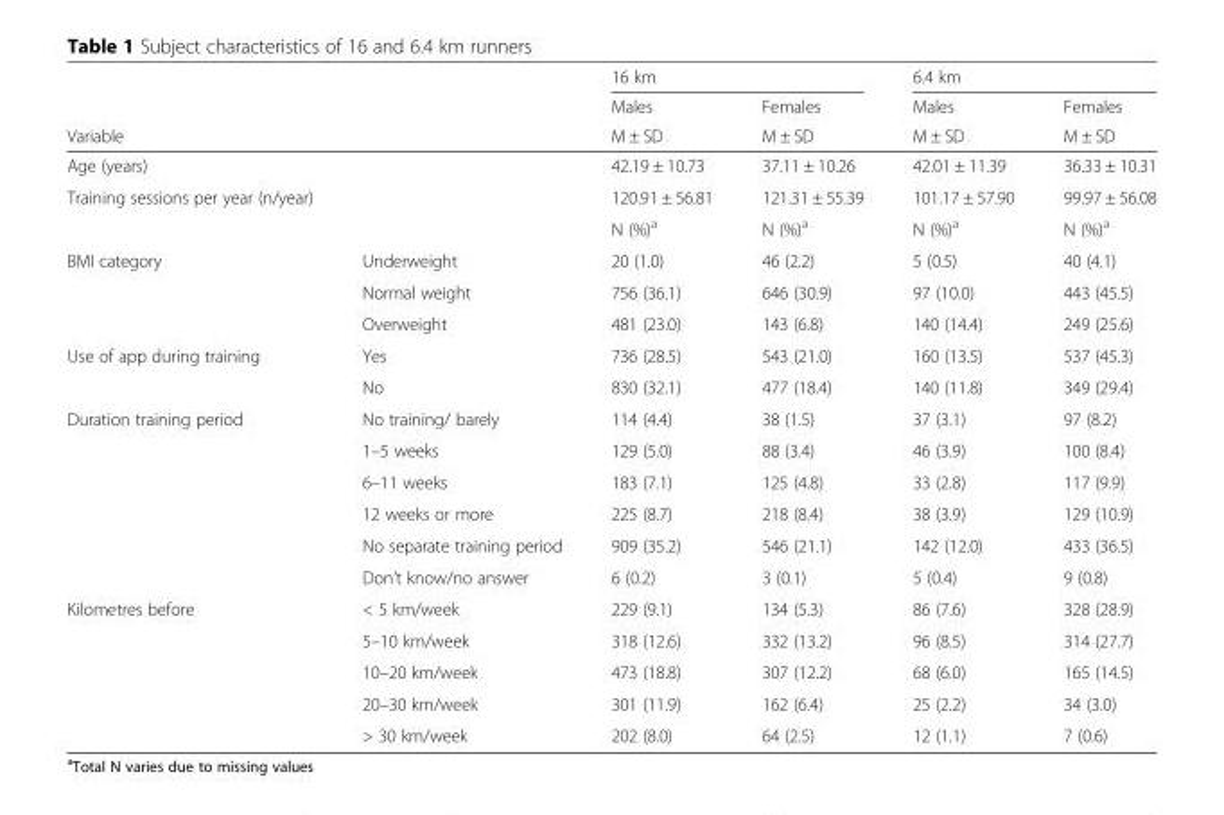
<table><thead><tr><td rowspan="3">Variable</td><td rowspan="3"></td><td colspan="2">16 km</td><td colspan="2">6.4 km</td></tr><tr><td rowspan="2">Males M ± SD</td><td rowspan="2">Females M ± SD</td><td rowspan="2">Males M ± SD</td><td rowspan="2">Females M ± SD</td></tr><tr></tr></thead><tbody><tr><td>Age (years)</td><td></td><td>42.19 ± 10.73</td><td>37.11 ± 10.26</td><td>42.01 ± 11.39</td><td>36.33 ± 10.31</td></tr><tr><td rowspan="2">Training sessions per year (n/year)</td><td></td><td>120.91 ± 56.81</td><td>121.31 ± 55.39</td><td>101.17 ± 57.90</td><td>99.97 ± 56.08</td></tr><tr><td></td><td>N (%)<sup>a</sup></td><td>N (%)<sup>a</sup></td><td>N (%)<sup>a</sup></td><td>N (%)<sup>a</sup></td></tr><tr><td rowspan="3">BMI category</td><td>Underweight</td><td>20 (1.0)</td><td>46 (2.2)</td><td>5 (0.5)</td><td>40 (4.1)</td></tr><tr><td>Normal weight</td><td>756 (36.1)</td><td>646 (30.9)</td><td>97 (10.0)</td><td>443 (45.5)</td></tr><tr><td>Overweight</td><td>481 (23.0)</td><td>143 (6.8)</td><td>140 (14.4)</td><td>249 (25.6)</td></tr><tr><td rowspan="2">Use of app during training</td><td>Yes</td><td>736 (28.5)</td><td>543 (21.0)</td><td>160 (13.5)</td><td>537 (45.3)</td></tr><tr><td>No</td><td>830 (32.1)</td><td>477 (18.4)</td><td>140 (11.8)</td><td>349 (29.4)</td></tr><tr><td rowspan="6">Duration training period</td><td>No training/ barely</td><td>114 (4.4)</td><td>38 (1.5)</td><td>37 (3.1)</td><td>97 (8.2)</td></tr><tr><td>1–5 weeks</td><td>129 (5.0)</td><td>88 (3.4)</td><td>46 (3.9)</td><td>100 (8.4)</td></tr><tr><td>6–11 weeks</td><td>183 (7.1)</td><td>125 (4.8)</td><td>33 (2.8)</td><td>117 (9.9)</td></tr><tr><td>12 weeks or more</td><td>225 (8.7)</td><td>218 (8.4)</td><td>38 (3.9)</td><td>129 (10.9)</td></tr><tr><td>No separate training period</td><td>909 (35.2)</td><td>546 (21.1)</td><td>142 (12.0)</td><td>433 (36.5)</td></tr><tr><td>Don’t know/no answer</td><td>6 (0.2)</td><td>3 (0.1)</td><td>5 (0.4)</td><td>9 (0.8)</td></tr><tr><td rowspan="5">Kilometres before</td><td>&lt; 5 km/week</td><td>229 (9.1)</td><td>134 (5.3)</td><td>86 (7.6)</td><td>328 (28.9)</td></tr><tr><td>5–10 km/week</td><td>318 (12.6)</td><td>332 (13.2)</td><td>96 (8.5)</td><td>314 (27.7)</td></tr><tr><td>10–20 km/week</td><td>473 (18.8)</td><td>307 (12.2)</td><td>68 (6.0)</td><td>165 (14.5)</td></tr><tr><td>20–30 km/week</td><td>301 (11.9)</td><td>162 (6.4)</td><td>25 (2.2)</td><td>34 (3.0)</td></tr><tr><td>&gt; 30 km/week</td><td>202 (8.0)</td><td>64 (2.5)</td><td>12 (1.1)</td><td>7 (0.6)</td></tr></tbody></table>